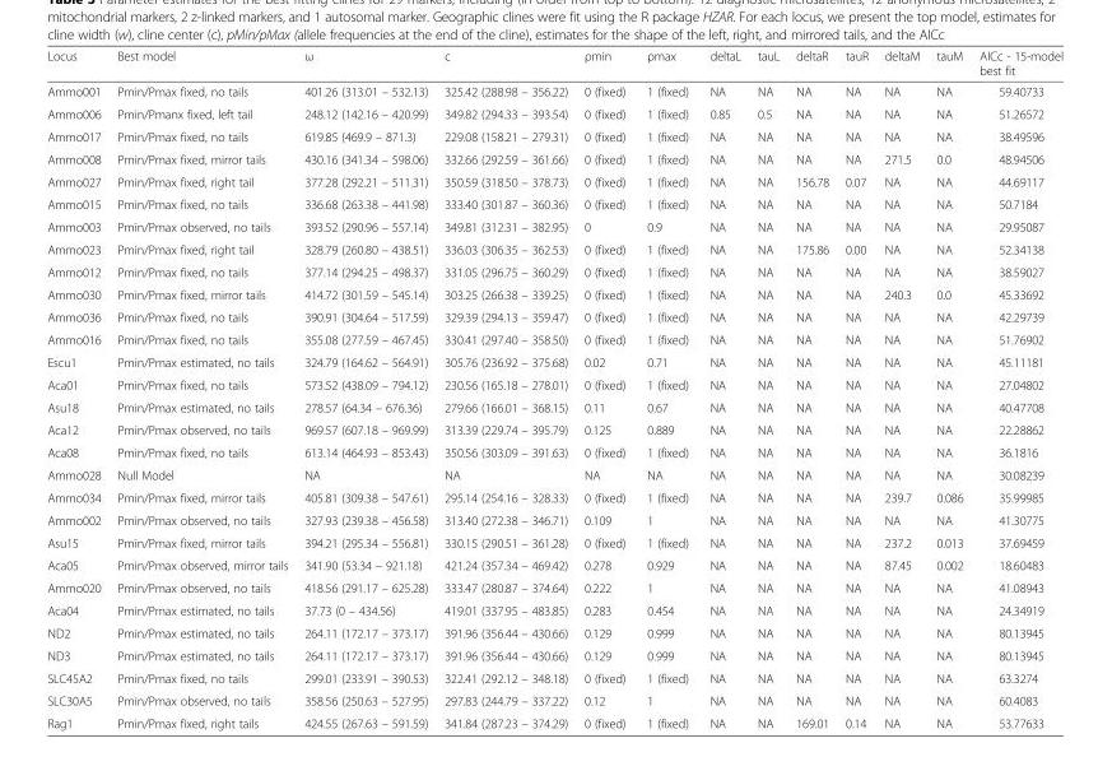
<table><thead><tr><td>Locus</td><td>Best model</td><td>ω</td><td>c</td><td>ρmin</td><td>ρmax</td><td>deltaL</td><td>tauL</td><td>deltaR</td><td>tauR</td><td>deltaM</td><td>tauM</td><td>AICc - 15-model best fit</td></tr></thead><tbody><tr><td>Ammo001</td><td>Pmin/Pmax fixed, no tails</td><td>401.26 (313.01 – 532.13)</td><td>325.42 (288.98 – 356.22)</td><td>0 (fixed)</td><td>1 (fixed)</td><td>NA</td><td>NA</td><td>NA</td><td>NA</td><td>NA</td><td>NA</td><td>59.40733</td></tr><tr><td>Ammo006</td><td>Pmin/Pmanx fixed, left tail</td><td>248.12 (142.16 – 420.99)</td><td>349.82 (294.33 – 393.54)</td><td>0 (fixed)</td><td>1 (fixed)</td><td>0.85</td><td>0.5</td><td>NA</td><td>NA</td><td>NA</td><td>NA</td><td>51.26572</td></tr><tr><td>Ammo017</td><td>Pmin/Pmax fixed, no tails</td><td>619.85 (469.9 – 871.3)</td><td>229.08 (158.21 – 279.31)</td><td>0 (fixed)</td><td>1 (fixed)</td><td>NA</td><td>NA</td><td>NA</td><td>NA</td><td>NA</td><td>NA</td><td>38.49596</td></tr><tr><td>Ammo008</td><td>Pmin/Pmax fixed, mirror tails</td><td>430.16 (341.34 – 598.06)</td><td>332.66 (292.59 – 361.66)</td><td>0 (fixed)</td><td>1 (fixed)</td><td>NA</td><td>NA</td><td>NA</td><td>NA</td><td>271.5</td><td>0.0</td><td>48.94506</td></tr><tr><td>Ammo027</td><td>Pmin/Pmax fixed, right tail</td><td>377.28 (292.21 – 511.31)</td><td>350.59 (318.50 – 378.73)</td><td>0 (fixed)</td><td>1 (fixed)</td><td>NA</td><td>NA</td><td>156.78</td><td>0.07</td><td>NA</td><td>NA</td><td>44.69117</td></tr><tr><td>Ammo015</td><td>Pmin/Pmax fixed, no tails</td><td>336.68 (263.38 – 441.98)</td><td>333.40 (301.87 – 360.36)</td><td>0 (fixed)</td><td>1 (fixed)</td><td>NA</td><td>NA</td><td>NA</td><td>NA</td><td>NA</td><td>NA</td><td>50.7184</td></tr><tr><td>Ammo003</td><td>Pmin/Pmax observed, no tails</td><td>393.52 (290.96 – 557.14)</td><td>349.81 (312.31 – 382.95)</td><td>0</td><td>0.9</td><td>NA</td><td>NA</td><td>NA</td><td>NA</td><td>NA</td><td>NA</td><td>29.95087</td></tr><tr><td>Ammo023</td><td>Pmin/Pmax fixed, right tail</td><td>328.79 (260.80 – 438.51)</td><td>336.03 (306.35 – 362.53)</td><td>0 (fixed)</td><td>1 (fixed)</td><td>NA</td><td>NA</td><td>175.86</td><td>0.00</td><td>NA</td><td>NA</td><td>52.34138</td></tr><tr><td>Ammo012</td><td>Pmin/Pmax fixed, no tails</td><td>377.14 (294.25 – 498.37)</td><td>331.05 (296.75 – 360.29)</td><td>0 (fixed)</td><td>1 (fixed)</td><td>NA</td><td>NA</td><td>NA</td><td>NA</td><td>NA</td><td>NA</td><td>38.59027</td></tr><tr><td>Ammo030</td><td>Pmin/Pmax fixed, mirror tails</td><td>414.72 (301.59 – 545.14)</td><td>303.25 (266.38 – 339.25)</td><td>0 (fixed)</td><td>1 (fixed)</td><td>NA</td><td>NA</td><td>NA</td><td>NA</td><td>240.3</td><td>0.0</td><td>45.33692</td></tr><tr><td>Ammo036</td><td>Pmin/Pmax fixed, no tails</td><td>390.91 (304.64 – 517.59)</td><td>329.39 (294.13 – 359.47)</td><td>0 (fixed)</td><td>1 (fixed)</td><td>NA</td><td>NA</td><td>NA</td><td>NA</td><td>NA</td><td>NA</td><td>42.29739</td></tr><tr><td>Ammo016</td><td>Pmin/Pmax fixed, no tails</td><td>355.08 (277.59 – 467.45)</td><td>330.41 (297.40 – 358.50)</td><td>0 (fixed)</td><td>1 (fixed)</td><td>NA</td><td>NA</td><td>NA</td><td>NA</td><td>NA</td><td>NA</td><td>51.76902</td></tr><tr><td>Escu1</td><td>Pmin/Pmax estimated, no tails</td><td>324.79 (164.62 – 564.91)</td><td>305.76 (236.92 – 375.68)</td><td>0.02</td><td>0.71</td><td>NA</td><td>NA</td><td>NA</td><td>NA</td><td>NA</td><td>NA</td><td>45.11181</td></tr><tr><td>Aca01</td><td>Pmin/Pmax fixed, no tails</td><td>573.52 (438.09 – 794.12)</td><td>230.56 (165.18 – 278.01)</td><td>0 (fixed)</td><td>1 (fixed)</td><td>NA</td><td>NA</td><td>NA</td><td>NA</td><td>NA</td><td>NA</td><td>27.04802</td></tr><tr><td>Asu18</td><td>Pmin/Pmax estimated, no tails</td><td>278.57 (64.34 – 676.36)</td><td>279.66 (166.01 – 368.15)</td><td>0.11</td><td>0.67</td><td>NA</td><td>NA</td><td>NA</td><td>NA</td><td>NA</td><td>NA</td><td>40.47708</td></tr><tr><td>Aca12</td><td>Pmin/Pmax observed, no tails</td><td>969.57 (607.18 – 969.99)</td><td>313.39 (229.74 – 395.79)</td><td>0.125</td><td>0.889</td><td>NA</td><td>NA</td><td>NA</td><td>NA</td><td>NA</td><td>NA</td><td>22.28862</td></tr><tr><td>Aca08</td><td>Pmin/Pmax fixed, no tails</td><td>613.14 (464.93 – 853.43)</td><td>350.56 (303.09 – 391.63)</td><td>0 (fixed)</td><td>1 (fixed)</td><td>NA</td><td>NA</td><td>NA</td><td>NA</td><td>NA</td><td>NA</td><td>36.1816</td></tr><tr><td>Ammo028</td><td>Null Model</td><td>NA</td><td>NA</td><td>NA</td><td>NA</td><td>NA</td><td>NA</td><td>NA</td><td>NA</td><td>NA</td><td>NA</td><td>30.08239</td></tr><tr><td>Ammo034</td><td>Pmin/Pmax fixed, mirror tails</td><td>405.81 (309.38 – 547.61)</td><td>295.14 (254.16 – 328.33)</td><td>0 (fixed)</td><td>1 (fixed)</td><td>NA</td><td>NA</td><td>NA</td><td>NA</td><td>239.7</td><td>0.086</td><td>35.99985</td></tr><tr><td>Ammo002</td><td>Pmin/Pmax observed, no tails</td><td>327.93 (239.38 – 456.58)</td><td>313.40 (272.38 – 346.71)</td><td>0.109</td><td>1</td><td>NA</td><td>NA</td><td>NA</td><td>NA</td><td>NA</td><td>NA</td><td>41.30775</td></tr><tr><td>Asu15</td><td>Pmin/Pmax fixed, mirror tails</td><td>394.21 (295.34 – 556.81)</td><td>330.15 (290.51 – 361.28)</td><td>0 (fixed)</td><td>1 (fixed)</td><td>NA</td><td>NA</td><td>NA</td><td>NA</td><td>237.2</td><td>0.013</td><td>37.69459</td></tr><tr><td>Aca05</td><td>Pmin/Pmax observed, mirror tails</td><td>341.90 (53.34 – 921.18)</td><td>421.24 (357.34 – 469.42)</td><td>0.278</td><td>0.929</td><td>NA</td><td>NA</td><td>NA</td><td>NA</td><td>87.45</td><td>0.002</td><td>18.60483</td></tr><tr><td>Ammo020</td><td>Pmin/Pmax observed, no tails</td><td>418.56 (291.17 – 625.28)</td><td>333.47 (280.87 – 374.64)</td><td>0.222</td><td>1</td><td>NA</td><td>NA</td><td>NA</td><td>NA</td><td>NA</td><td>NA</td><td>41.08943</td></tr><tr><td>Aca04</td><td>Pmin/Pmax estimated, no tails</td><td>37.73 (0 – 434.56)</td><td>419.01 (337.95 – 483.85)</td><td>0.283</td><td>0.454</td><td>NA</td><td>NA</td><td>NA</td><td>NA</td><td>NA</td><td>NA</td><td>24.34919</td></tr><tr><td>ND2</td><td>Pmin/Pmax estimated, no tails</td><td>264.11 (172.17 – 373.17)</td><td>391.96 (356.44 – 430.66)</td><td>0.129</td><td>0.999</td><td>NA</td><td>NA</td><td>NA</td><td>NA</td><td>NA</td><td>NA</td><td>80.13945</td></tr><tr><td>ND3</td><td>Pmin/Pmax estimated, no tails</td><td>264.11 (172.17 – 373.17)</td><td>391.96 (356.44 – 430.66)</td><td>0.129</td><td>0.999</td><td>NA</td><td>NA</td><td>NA</td><td>NA</td><td>NA</td><td>NA</td><td>80.13945</td></tr><tr><td>SLC45A2</td><td>Pmin/Pmax fixed, no tails</td><td>299.01 (233.91 – 390.53)</td><td>322.41 (292.12 – 348.18)</td><td>0 (fixed)</td><td>1 (fixed)</td><td>NA</td><td>NA</td><td>NA</td><td>NA</td><td>NA</td><td>NA</td><td>63.3274</td></tr><tr><td>SLC30A5</td><td>Pmin/Pmax observed, no tails</td><td>358.56 (250.63 – 527.95)</td><td>297.83 (244.79 – 337.22)</td><td>0.12</td><td>1</td><td>NA</td><td>NA</td><td>NA</td><td>NA</td><td>NA</td><td>NA</td><td>60.4083</td></tr><tr><td>Rag1</td><td>Pmin/Pmax fixed, right tails</td><td>424.55 (267.63 – 591.59)</td><td>341.84 (287.23 – 374.29)</td><td>0 (fixed)</td><td>1 (fixed)</td><td>NA</td><td>NA</td><td>169.01</td><td>0.14</td><td>NA</td><td>NA</td><td>53.77633</td></tr></tbody></table>